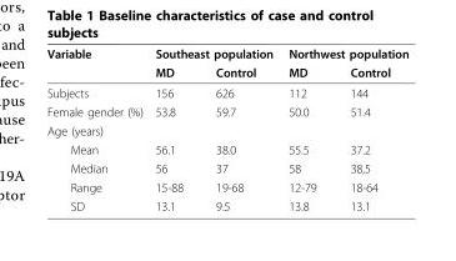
<table><thead><tr><td rowspan="2">Variable</td><td colspan="2">Southeast population</td><td colspan="2">Northwest population</td></tr><tr><td>MD</td><td>Control</td><td>MD</td><td>Control</td></tr></thead><tbody><tr><td>Subjects</td><td>156</td><td>626</td><td>112</td><td>144</td></tr><tr><td>Female gender (%)</td><td>53.8</td><td>59.7</td><td>50.0</td><td>51.4</td></tr><tr><td colspan="5">Age (years)</td></tr><tr><td>Mean</td><td>56.1</td><td>38.0</td><td>55.5</td><td>37.2</td></tr><tr><td>Median</td><td>56</td><td>37</td><td>58</td><td>38,5</td></tr><tr><td>Range</td><td>15-88</td><td>19-68</td><td>12-79</td><td>18-64</td></tr><tr><td>SD</td><td>13.1</td><td>9.5</td><td>13.8</td><td>13.1</td></tr></tbody></table>